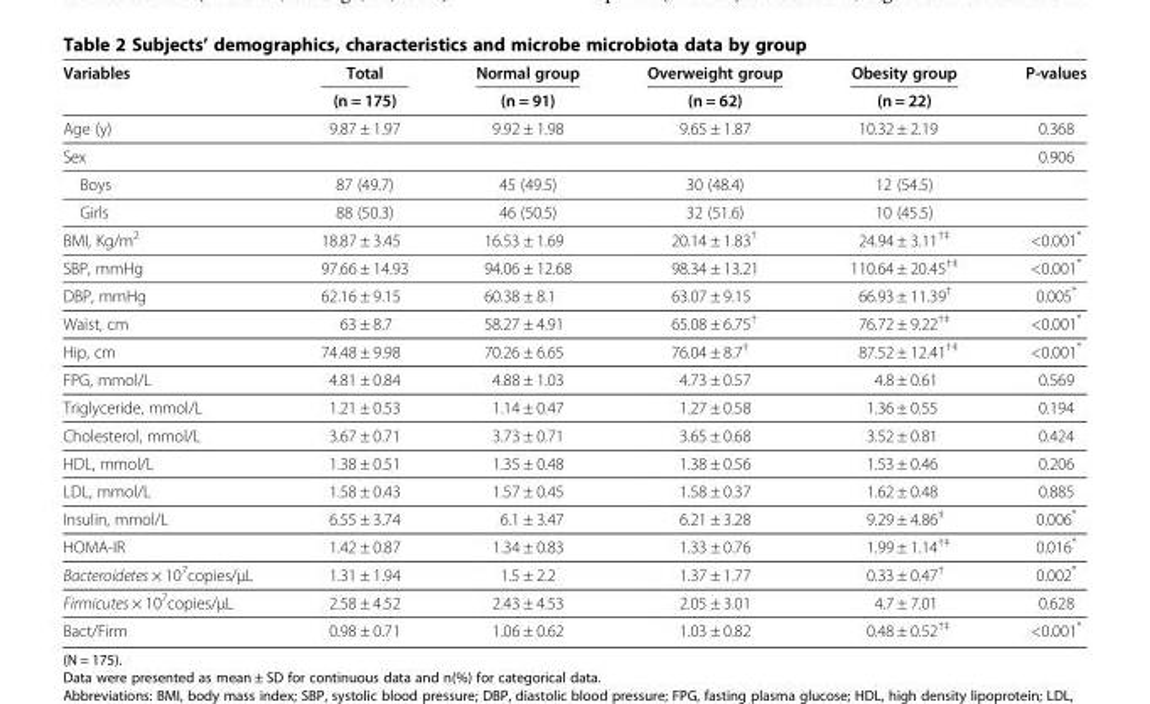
<table><thead><tr><td rowspan="2">Variables</td><td rowspan="2">Total (n = 175)</td><td rowspan="2">Normal group (n = 91)</td><td rowspan="2">Overweight group (n = 62)</td><td rowspan="2">Obesity group (n = 22)</td><td rowspan="2">P-values</td></tr><tr></tr></thead><tbody><tr><td>Age (y)</td><td>9.87 ± 1.97</td><td>9.92 ± 1.98</td><td>9.65 ± 1.87</td><td>10.32 ± 2.19</td><td>0.368</td></tr><tr><td>Sex</td><td></td><td></td><td></td><td></td><td>0.906</td></tr><tr><td>Boys</td><td>87 (49.7)</td><td>45 (49.5)</td><td>30 (48.4)</td><td>12 (54.5)</td><td></td></tr><tr><td>Girls</td><td>88 (50.3)</td><td>46 (50.5)</td><td>32 (51.6)</td><td>10 (45.5)</td><td></td></tr><tr><td>BMI, Kg/m<sup>2</sup></td><td>18.87 ± 3.45</td><td>16.53 ± 1.69</td><td>20.14 ± 1.83<sup>†</sup></td><td>24.94 ± 3.11<sup>†‡</sup></td><td>&lt;0.001*</td></tr><tr><td>SBP, mmHg</td><td>97.66 ± 14.93</td><td>94.06 ± 12.68</td><td>98.34 ± 13.21</td><td>110.64 ± 20.45<sup>†‡</sup></td><td>&lt;0.001*</td></tr><tr><td>DBP, mmHg</td><td>62.16 ± 9.15</td><td>60.38 ± 8.1</td><td>63.07 ± 9.15</td><td>66.93 ± 11.39<sup>†</sup></td><td>0.005*</td></tr><tr><td>Waist, cm</td><td>63 ± 8.7</td><td>58.27 ± 4.91</td><td>65.08 ± 6.75<sup>†</sup></td><td>76.72 ± 9.22<sup>†‡</sup></td><td>&lt;0.001*</td></tr><tr><td>Hip, cm</td><td>74.48 ± 9.98</td><td>70.26 ± 6.65</td><td>76.04 ± 8.7<sup>†</sup></td><td>87.52 ± 12.41<sup>†‡</sup></td><td>&lt;0.001*</td></tr><tr><td>FPG, mmol/L</td><td>4.81 ± 0.84</td><td>4.88 ± 1.03</td><td>4.73 ± 0.57</td><td>4.8 ± 0.61</td><td>0.569</td></tr><tr><td>Triglyceride, mmol/L</td><td>1.21 ± 0.53</td><td>1.14 ± 0.47</td><td>1.27 ± 0.58</td><td>1.36 ± 0.55</td><td>0.194</td></tr><tr><td>Cholesterol, mmol/L</td><td>3.67 ± 0.71</td><td>3.73 ± 0.71</td><td>3.65 ± 0.68</td><td>3.52 ± 0.81</td><td>0.424</td></tr><tr><td>HDL, mmol/L</td><td>1.38 ± 0.51</td><td>1.35 ± 0.48</td><td>1.38 ± 0.56</td><td>1.53 ± 0.46</td><td>0.206</td></tr><tr><td>LDL, mmol/L</td><td>1.58 ± 0.43</td><td>1.57 ± 0.45</td><td>1.58 ± 0.37</td><td>1.62 ± 0.48</td><td>0.885</td></tr><tr><td>Insulin, mmol/L</td><td>6.55 ± 3.74</td><td>6.1 ± 3.47</td><td>6.21 ± 3.28</td><td>9.29 ± 4.86<sup>‡</sup></td><td>0.006*</td></tr><tr><td>HOMA-IR</td><td>1.42 ± 0.87</td><td>1.34 ± 0.83</td><td>1.33 ± 0.76</td><td>1.99 ± 1.14<sup>†‡</sup></td><td>0.016*</td></tr><tr><td>Bacteroidetes × 10<sup>7</sup>copies/μL</td><td>1.31 ± 1.94</td><td>1.5 ± 2.2</td><td>1.37 ± 1.77</td><td>0.33 ± 0.47<sup>†</sup></td><td>0.002*</td></tr><tr><td>Firmicutes × 10<sup>7</sup>copies/μL</td><td>2.58 ± 4.52</td><td>2.43 ± 4.53</td><td>2.05 ± 3.01</td><td>4.7 ± 7.01</td><td>0.628</td></tr><tr><td>Bact/Firm</td><td>0.98 ± 0.71</td><td>1.06 ± 0.62</td><td>1.03 ± 0.82</td><td>0.48 ± 0.52<sup>†‡</sup></td><td>&lt;0.001*</td></tr></tbody></table>